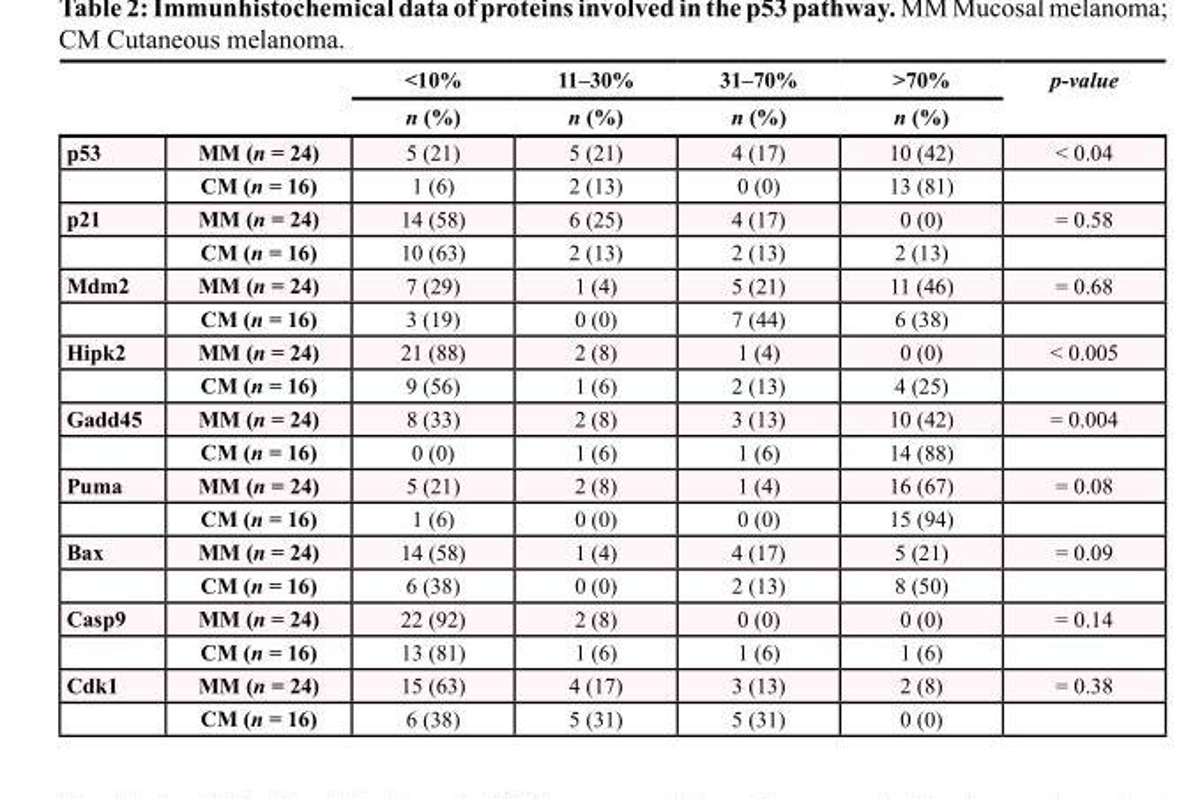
<table><thead><tr><td rowspan="2"></td><td rowspan="2"></td><td rowspan="2">&lt;10% n (%)</td><td rowspan="2">11–30% n (%)</td><td rowspan="2">31–70% n (%)</td><td rowspan="2">&gt;70% n (%)</td><td rowspan="2">p-value</td></tr><tr></tr></thead><tbody><tr><td rowspan="2">p53</td><td>MM (n = 24)</td><td>5 (21)</td><td>5 (21)</td><td>4 (17)</td><td>10 (42)</td><td>&lt; 0.04</td></tr><tr><td>CM (n = 16)</td><td>1 (6)</td><td>2 (13)</td><td>0 (0)</td><td>13 (81)</td><td></td></tr><tr><td rowspan="2">p21</td><td>MM (n = 24)</td><td>14 (58)</td><td>6 (25)</td><td>4 (17)</td><td>0 (0)</td><td>= 0.58</td></tr><tr><td>CM (n = 16)</td><td>10 (63)</td><td>2 (13)</td><td>2 (13)</td><td>2 (13)</td><td></td></tr><tr><td rowspan="2">Mdm2</td><td>MM (n = 24)</td><td>7 (29)</td><td>1 (4)</td><td>5 (21)</td><td>11 (46)</td><td>= 0.68</td></tr><tr><td>CM (n = 16)</td><td>3 (19)</td><td>0 (0)</td><td>7 (44)</td><td>6 (38)</td><td></td></tr><tr><td rowspan="2">Hipk2</td><td>MM (n = 24)</td><td>21 (88)</td><td>2 (8)</td><td>1 (4)</td><td>0 (0)</td><td>&lt; 0.005</td></tr><tr><td>CM (n = 16)</td><td>9 (56)</td><td>1 (6)</td><td>2 (13)</td><td>4 (25)</td><td></td></tr><tr><td rowspan="2">Gadd45</td><td>MM (n = 24)</td><td>8 (33)</td><td>2 (8)</td><td>3 (13)</td><td>10 (42)</td><td>= 0.004</td></tr><tr><td>CM (n = 16)</td><td>0 (0)</td><td>1 (6)</td><td>1 (6)</td><td>14 (88)</td><td></td></tr><tr><td rowspan="2">Puma</td><td>MM (n = 24)</td><td>5 (21)</td><td>2 (8)</td><td>1 (4)</td><td>16 (67)</td><td>= 0.08</td></tr><tr><td>CM (n = 16)</td><td>1 (6)</td><td>0 (0)</td><td>0 (0)</td><td>15 (94)</td><td></td></tr><tr><td rowspan="2">Bax</td><td>MM (n = 24)</td><td>14 (58)</td><td>1 (4)</td><td>4 (17)</td><td>5 (21)</td><td>= 0.09</td></tr><tr><td>CM (n = 16)</td><td>6 (38)</td><td>0 (0)</td><td>2 (13)</td><td>8 (50)</td><td></td></tr><tr><td rowspan="2">Casp9</td><td>MM (n = 24)</td><td>22 (92)</td><td>2 (8)</td><td>0 (0)</td><td>0 (0)</td><td>= 0.14</td></tr><tr><td>CM (n = 16)</td><td>13 (81)</td><td>1 (6)</td><td>1 (6)</td><td>1 (6)</td><td></td></tr><tr><td rowspan="2">Cdk1</td><td>MM (n = 24)</td><td>15 (63)</td><td>4 (17)</td><td>3 (13)</td><td>2 (8)</td><td>= 0.38</td></tr><tr><td>CM (n = 16)</td><td>6 (38)</td><td>5 (31)</td><td>5 (31)</td><td>0 (0)</td><td></td></tr></tbody></table>